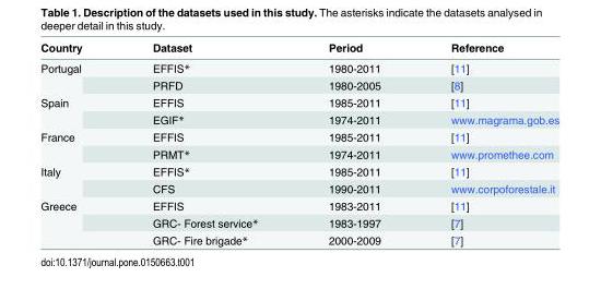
<table><thead><tr><td>Country</td><td>Dataset</td><td>Period</td><td>Reference</td></tr></thead><tbody><tr><td rowspan="2">Portugal</td><td>EFFIS*</td><td>1980-2011</td><td>[11]</td></tr><tr><td>PRFD</td><td>1980-2005</td><td>[8]</td></tr><tr><td rowspan="2">Spain</td><td>EFFIS</td><td>1985-2011</td><td>[11]</td></tr><tr><td>EGIF*</td><td>1974-2011</td><td>www.magrama.gob.es</td></tr><tr><td rowspan="2">France</td><td>EFFIS</td><td>1985-2011</td><td>[11]</td></tr><tr><td>PRMT*</td><td>1974-2011</td><td>www.promethee.com</td></tr><tr><td rowspan="2">Italy</td><td>EFFIS*</td><td>1985-2011</td><td>[11]</td></tr><tr><td>CFS</td><td>1990-2011</td><td>www.corpoforestale.it</td></tr><tr><td rowspan="3">Greece</td><td>EFFIS</td><td>1983-2011</td><td>[11]</td></tr><tr><td>GRC- Forest service*</td><td>1983-1997</td><td>[7]</td></tr><tr><td>GRC- Fire brigade*</td><td>2000-2009</td><td>[7]</td></tr></tbody></table>